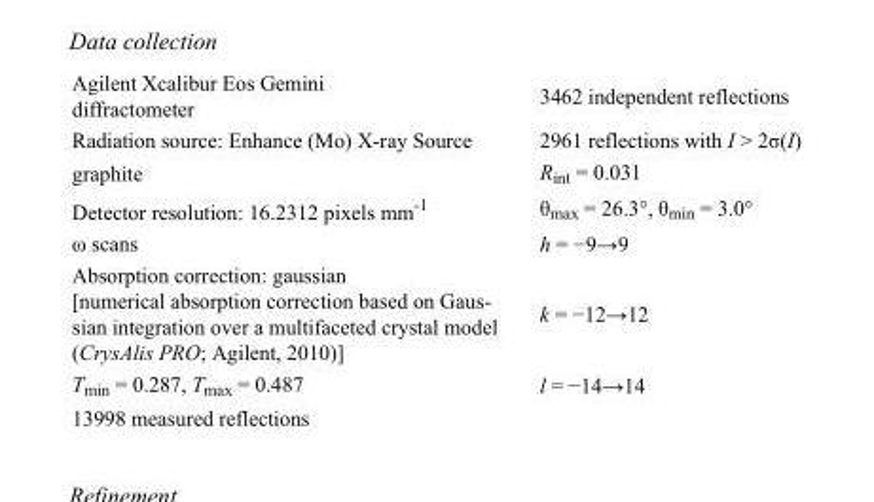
<table><tbody><tr><td>Agilent Xcalibur Eos Gemini diffractometer</td><td>3462 independent reflections</td></tr><tr><td>Radiation source: Enhance (Mo) X-ray Source</td><td>2961 reflections with I &gt; 2σ(I)</td></tr><tr><td>graphite</td><td>R<sub>int</sub> = 0.031</td></tr><tr><td>Detector resolution: 16.2312 pixels mm<sup>-1</sup></td><td>θ<sub>max</sub> = 26.3°, θ<sub>min</sub> = 3.0°</td></tr><tr><td>ω scans</td><td>h = −9→9</td></tr><tr><td>Absorption correction: gaussian [numerical absorption correction based on Gaus- sian integration over a multifaceted crystal model (CrysAlis PRO; Agilent, 2010)]</td><td>k = −12→12</td></tr><tr><td>T<sub>min</sub> = 0.287, T<sub>max</sub> = 0.487</td><td>l = −14→14</td></tr><tr><td>13998 measured reflections</td><td></td></tr></tbody></table>